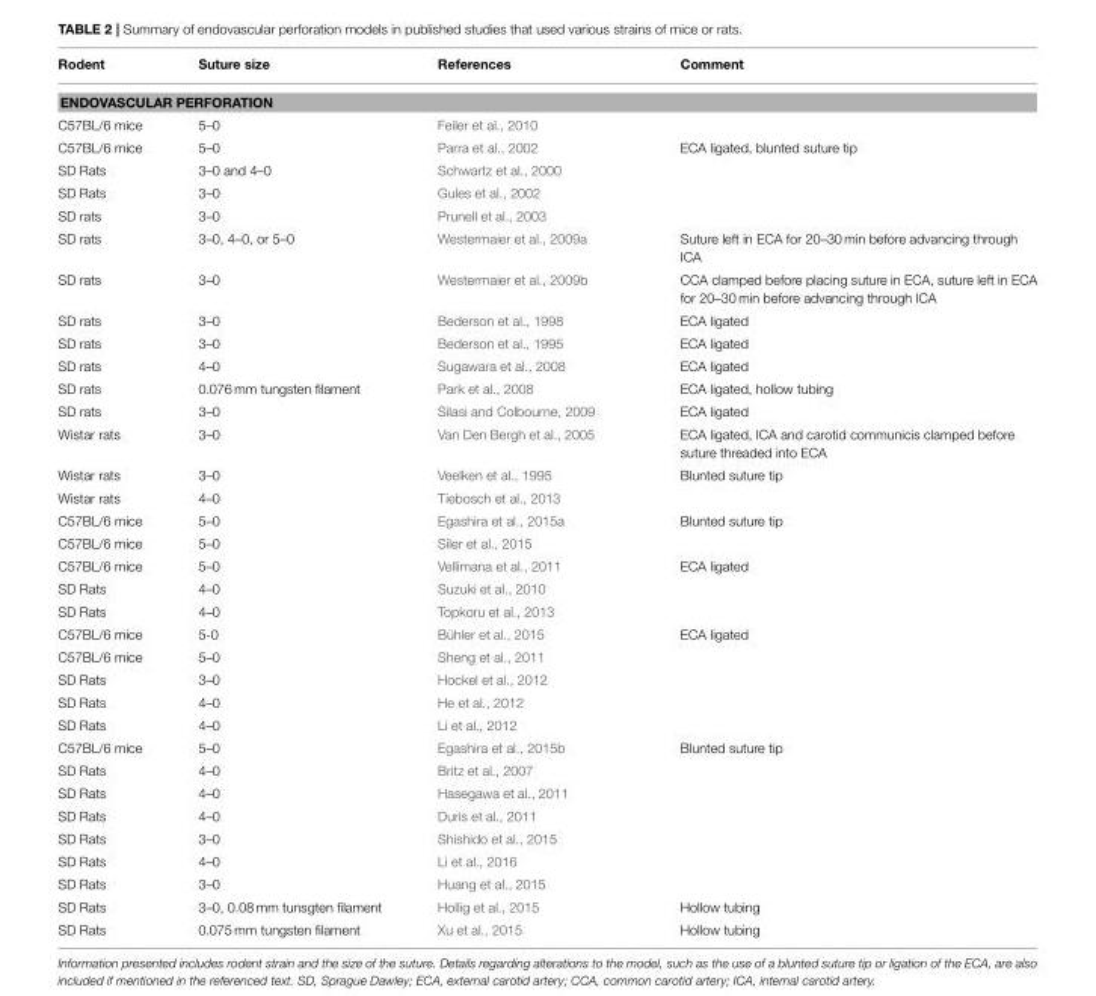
<table><thead><tr><td>Rodent</td><td>Suture size</td><td>References</td><td>Comment</td></tr></thead><tbody><tr><td colspan="4">ENDOVASCULAR PERFORATION</td></tr><tr><td>C57BL/6 mice</td><td>5–0</td><td>Feiler et al., 2010</td><td></td></tr><tr><td>C57BL/6 mice</td><td>5–0</td><td>Parra et al., 2002</td><td>ECA ligated, blunted suture tip</td></tr><tr><td>SD Rats</td><td>3–0 and 4–0</td><td>Schwartz et al., 2000</td><td></td></tr><tr><td>SD Rats</td><td>3–0</td><td>Gules et al., 2002</td><td></td></tr><tr><td>SD rats</td><td>3–0</td><td>Prunell et al., 2003</td><td></td></tr><tr><td>SD rats</td><td>3–0, 4–0, or 5–0</td><td>Westermaier et al., 2009a</td><td>Suture left in ECA for 20–30 min before advancing through ICA</td></tr><tr><td>SD rats</td><td>3–0</td><td>Westermaier et al., 2009b</td><td>CCA clamped before placing suture in ECA, suture left in ECA for 20–30 min before advancing through ICA</td></tr><tr><td>SD rats</td><td>3–0</td><td>Bederson et al., 1998</td><td>ECA ligated</td></tr><tr><td>SD rats</td><td>3–0</td><td>Bederson et al., 1995</td><td>ECA ligated</td></tr><tr><td>SD rats</td><td>4–0</td><td>Sugawara et al., 2008</td><td>ECA ligated</td></tr><tr><td>SD rats</td><td>0.076 mm tungsten filament</td><td>Park et al., 2008</td><td>ECA ligated, hollow tubing</td></tr><tr><td>SD rats</td><td>3–0</td><td>Silasi and Colbourne, 2009</td><td>ECA ligated</td></tr><tr><td>Wistar rats</td><td>3–0</td><td>Van Den Bergh et al., 2005</td><td>ECA ligated, ICA and carotid communicis clamped before suture threaded into ECA</td></tr><tr><td>Wistar rats</td><td>3–0</td><td>Veelken et al., 1995</td><td>Blunted suture tip</td></tr><tr><td>Wistar rats</td><td>4–0</td><td>Tiebosch et al., 2013</td><td></td></tr><tr><td>C57BL/6 mice</td><td>5–0</td><td>Egashira et al., 2015a</td><td>Blunted suture tip</td></tr><tr><td>C57BL/6 mice</td><td>5–0</td><td>Siler et al., 2015</td><td></td></tr><tr><td>C57BL/6 mice</td><td>5–0</td><td>Vellimana et al., 2011</td><td>ECA ligated</td></tr><tr><td>SD Rats</td><td>4–0</td><td>Suzuki et al., 2010</td><td></td></tr><tr><td>SD Rats</td><td>4–0</td><td>Topkoru et al., 2013</td><td></td></tr><tr><td>C57BL/6 mice</td><td>5-0</td><td>Bühler et al., 2015</td><td>ECA ligated</td></tr><tr><td>C57BL/6 mice</td><td>5–0</td><td>Sheng et al., 2011</td><td></td></tr><tr><td>SD Rats</td><td>3–0</td><td>Hockel et al., 2012</td><td></td></tr><tr><td>SD Rats</td><td>4–0</td><td>He et al., 2012</td><td></td></tr><tr><td>SD Rats</td><td>4–0</td><td>Li et al., 2012</td><td></td></tr><tr><td>C57BL/6 mice</td><td>5–0</td><td>Egashira et al., 2015b</td><td>Blunted suture tip</td></tr><tr><td>SD Rats</td><td>4–0</td><td>Britz et al., 2007</td><td></td></tr><tr><td>SD Rats</td><td>4–0</td><td>Hasegawa et al., 2011</td><td></td></tr><tr><td>SD Rats</td><td>4–0</td><td>Duris et al., 2011</td><td></td></tr><tr><td>SD Rats</td><td>3–0</td><td>Shishido et al., 2015</td><td></td></tr><tr><td>SD Rats</td><td>4–0</td><td>Li et al., 2016</td><td></td></tr><tr><td>SD Rats</td><td>3–0</td><td>Huang et al., 2015</td><td></td></tr><tr><td>SD Rats</td><td>3–0, 0.08 mm tunsgten filament</td><td>Hollig et al., 2015</td><td>Hollow tubing</td></tr><tr><td>SD Rats</td><td>0.075 mm tungsten filament</td><td>Xu et al., 2015</td><td>Hollow tubing</td></tr></tbody></table>